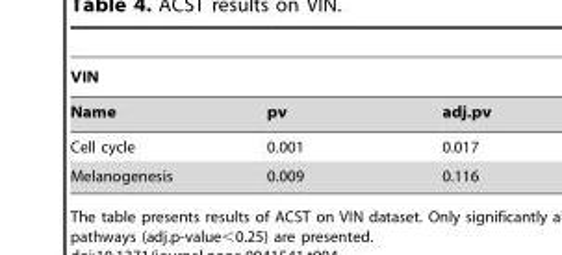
<table><thead><tr><td colspan="3">VIN</td></tr><tr><td>Name</td><td>pv</td><td>adj.pv</td></tr></thead><tbody><tr><td>Cell cycle</td><td>0.001</td><td>0.017</td></tr><tr><td>Melanogenesis</td><td>0.009</td><td>0.116</td></tr></tbody></table>